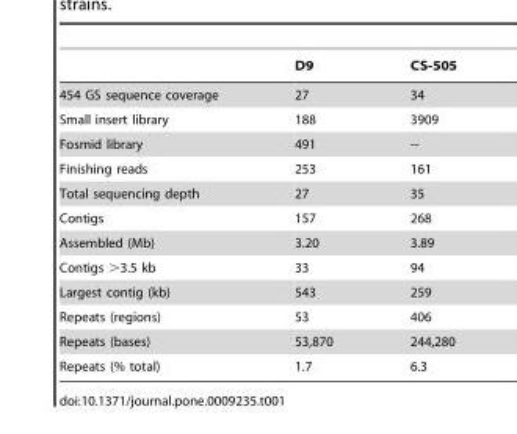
<table><thead><tr><td></td><td>D9</td><td>CS-505</td></tr></thead><tbody><tr><td>454 GS sequence coverage</td><td>27</td><td>34</td></tr><tr><td>Small insert library</td><td>188</td><td>3909</td></tr><tr><td>Fosmid library</td><td>491</td><td>--</td></tr><tr><td>Finishing reads</td><td>253</td><td>161</td></tr><tr><td>Total sequencing depth</td><td>27</td><td>35</td></tr><tr><td>Contigs</td><td>157</td><td>268</td></tr><tr><td>Assembled (Mb)</td><td>3.20</td><td>3.89</td></tr><tr><td>Contigs &gt;3.5 kb</td><td>33</td><td>94</td></tr><tr><td>Largest contig (kb)</td><td>543</td><td>259</td></tr><tr><td>Repeats (regions)</td><td>53</td><td>406</td></tr><tr><td>Repeats (bases)</td><td>53,870</td><td>244,280</td></tr><tr><td>Repeats (% total)</td><td>1.7</td><td>6.3</td></tr></tbody></table>